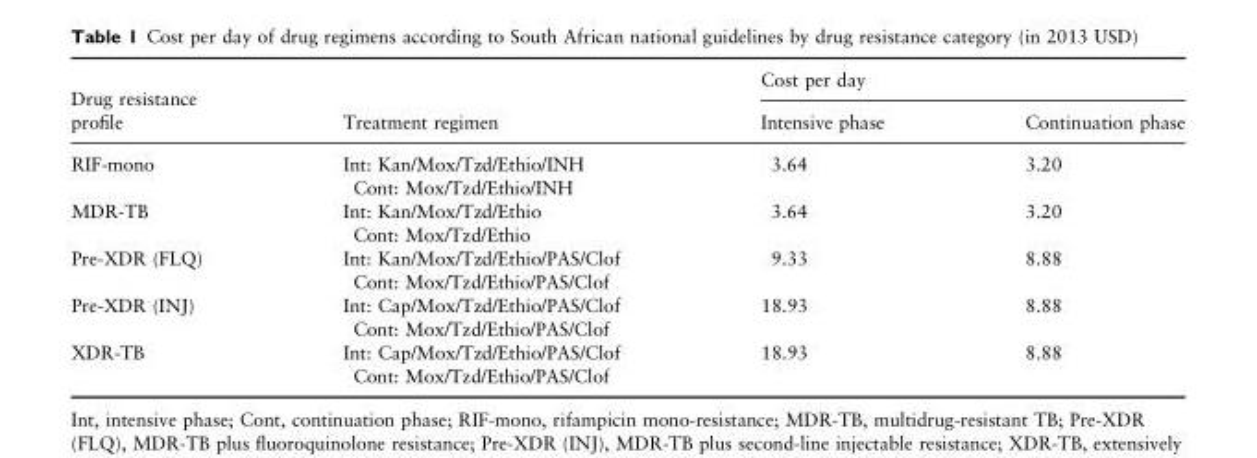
<table><thead><tr><td rowspan="2">Drug resistance profile</td><td rowspan="2">Treatment regimen</td><td colspan="2">Cost per day</td></tr><tr><td>Intensive phase</td><td>Continuation phase</td></tr></thead><tbody><tr><td>RIF-mono</td><td>Int: Kan/Mox/Tzd/Ethio/INH Cont: Mox/Tzd/Ethio/INH</td><td>3.64</td><td>3.20</td></tr><tr><td>MDR-TB</td><td>Int: Kan/Mox/Tzd/Ethio Cont: Mox/Tzd/Ethio</td><td>3.64</td><td>3.20</td></tr><tr><td>Pre-XDR (FLQ)</td><td>Int: Kan/Mox/Tzd/Ethio/PAS/Clof Cont: Mox/Tzd/Ethio/PAS/Clof</td><td>9.33</td><td>8.88</td></tr><tr><td>Pre-XDR (INJ)</td><td>Int: Cap/Mox/Tzd/Ethio/PAS/Clof Cont: Mox/Tzd/Ethio/PAS/Clof</td><td>18.93</td><td>8.88</td></tr><tr><td>XDR-TB</td><td>Int: Cap/Mox/Tzd/Ethio/PAS/Clof Cont: Mox/Tzd/Ethio/PAS/Clof</td><td>18.93</td><td>8.88</td></tr></tbody></table>